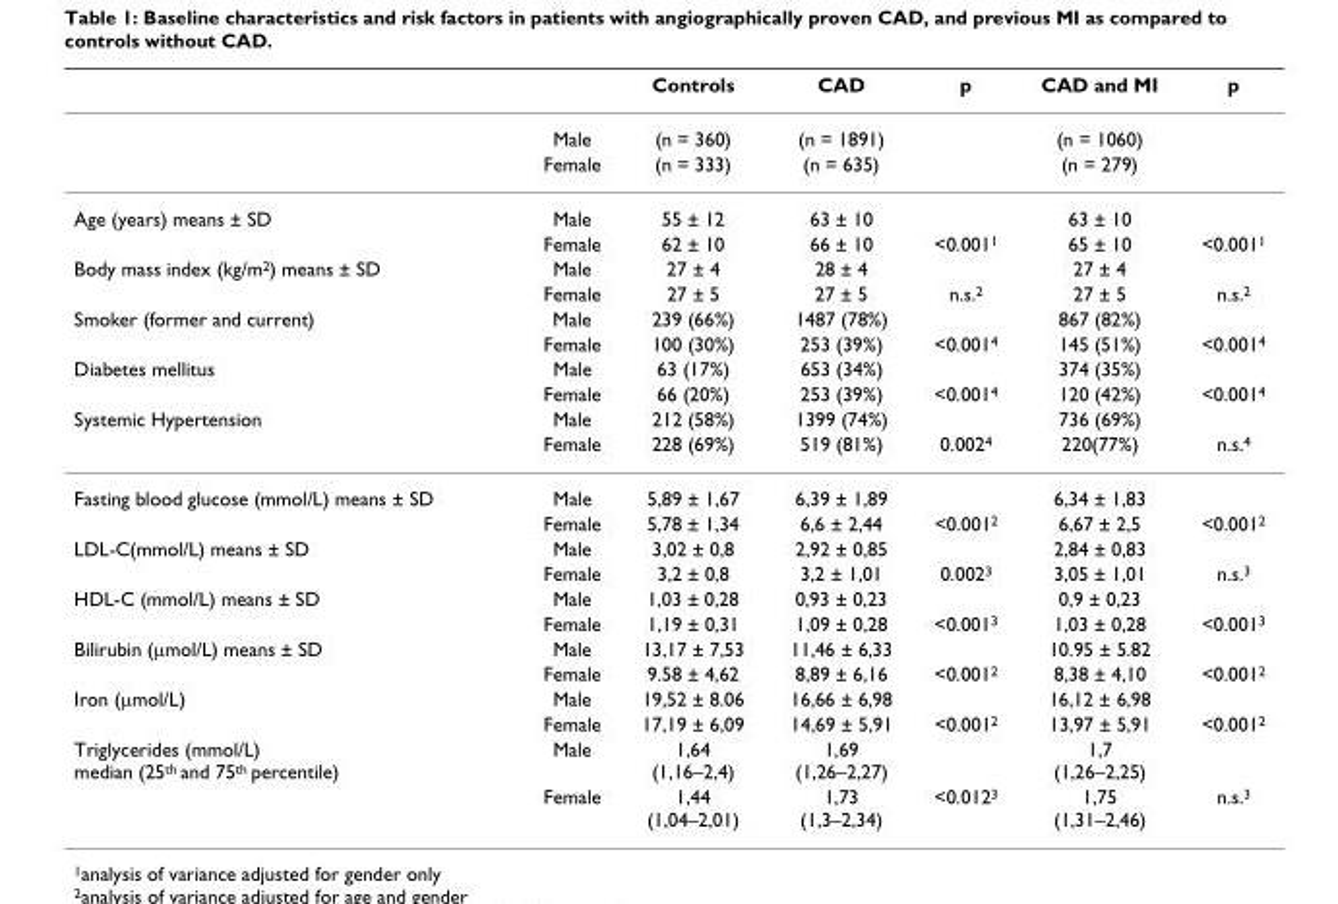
<table><thead><tr><td></td><td></td><td>Controls</td><td>CAD</td><td>p</td><td>CAD and MI</td><td>p</td></tr></thead><tbody><tr><td></td><td>Male</td><td>(n = 360)</td><td>(n = 1891)</td><td></td><td>(n = 1060)</td><td></td></tr><tr><td></td><td>Female</td><td>(n = 333)</td><td>(n = 635)</td><td></td><td>(n = 279)</td><td></td></tr><tr><td rowspan="2">Age (years) means ± SD</td><td>Male</td><td>55 ± 12</td><td>63 ± 10</td><td></td><td>63 ± 10</td><td></td></tr><tr><td>Female</td><td>62 ± 10</td><td>66 ± 10</td><td>&lt;0.001<sup>1</sup></td><td>65 ± 10</td><td>&lt;0.001<sup>1</sup></td></tr><tr><td rowspan="2">Body mass index (kg/m<sup>2</sup>) means ± SD</td><td>Male</td><td>27 ± 4</td><td>28 ± 4</td><td></td><td>27 ± 4</td><td></td></tr><tr><td>Female</td><td>27 ± 5</td><td>27 ± 5</td><td>n.s.<sup>2</sup></td><td>27 ± 5</td><td>n.s.<sup>2</sup></td></tr><tr><td rowspan="2">Smoker (former and current)</td><td>Male</td><td>239 (66%)</td><td>1487 (78%)</td><td></td><td>867 (82%)</td><td></td></tr><tr><td>Female</td><td>100 (30%)</td><td>253 (39%)</td><td>&lt;0.001<sup>4</sup></td><td>145 (51%)</td><td>&lt;0.001<sup>4</sup></td></tr><tr><td rowspan="2">Diabetes mellitus</td><td>Male</td><td>63 (17%)</td><td>653 (34%)</td><td></td><td>374 (35%)</td><td></td></tr><tr><td>Female</td><td>66 (20%)</td><td>253 (39%)</td><td>&lt;0.001<sup>4</sup></td><td>120 (42%)</td><td>&lt;0.001<sup>4</sup></td></tr><tr><td rowspan="2">Systemic Hypertension</td><td>Male</td><td>212 (58%)</td><td>1399 (74%)</td><td></td><td>736 (69%)</td><td></td></tr><tr><td>Female</td><td>228 (69%)</td><td>519 (81%)</td><td>0.002<sup>4</sup></td><td>220(77%)</td><td>n.s.<sup>4</sup></td></tr><tr><td rowspan="2">Fasting blood glucose (mmol/L) means ± SD</td><td>Male</td><td>5,89 ± 1,67</td><td>6,39 ± 1,89</td><td></td><td>6,34 ± 1,83</td><td></td></tr><tr><td>Female</td><td>5,78 ± 1,34</td><td>6,6 ± 2,44</td><td>&lt;0.001<sup>2</sup></td><td>6,67 ± 2,5</td><td>&lt;0.001<sup>2</sup></td></tr><tr><td rowspan="2">LDL-C(mmol/L) means ± SD</td><td>Male</td><td>3,02 ± 0,8</td><td>2,92 ± 0,85</td><td></td><td>2,84 ± 0,83</td><td></td></tr><tr><td>Female</td><td>3,2 ± 0,8</td><td>3,2 ± 1,01</td><td>0.002<sup>3</sup></td><td>3,05 ± 1,01</td><td>n.s.<sup>3</sup></td></tr><tr><td rowspan="2">HDL-C (mmol/L) means ± SD</td><td>Male</td><td>1,03 ± 0,28</td><td>0,93 ± 0,23</td><td></td><td>0,9 ± 0,23</td><td></td></tr><tr><td>Female</td><td>1,19 ± 0,31</td><td>1,09 ± 0,28</td><td>&lt;0.001<sup>3</sup></td><td>1,03 ± 0,28</td><td>&lt;0.001<sup>3</sup></td></tr><tr><td rowspan="2">Bilirubin (μmol/L) means ± SD</td><td>Male</td><td>13,17 ± 7,53</td><td>11,46 ± 6,33</td><td></td><td>10.95 ± 5.82</td><td></td></tr><tr><td>Female</td><td>9.58 ± 4,62</td><td>8,89 ± 6,16</td><td>&lt;0.001<sup>2</sup></td><td>8,38 ± 4,10</td><td>&lt;0.001<sup>2</sup></td></tr><tr><td rowspan="2">Iron (μmol/L)</td><td>Male</td><td>19,52 ± 8.06</td><td>16,66 ± 6,98</td><td></td><td>16,12 ± 6,98</td><td></td></tr><tr><td>Female</td><td>17,19 ± 6,09</td><td>14,69 ± 5,91</td><td>&lt;0.001<sup>2</sup></td><td>13,97 ± 5,91</td><td>&lt;0.001<sup>2</sup></td></tr><tr><td rowspan="2">Triglycerides (mmol/L) median (25<sup>th</sup> and 75<sup>th</sup> percentile)</td><td>Male</td><td>1,64 (1,16–2,4)</td><td>1,69 (1,26–2,27)</td><td></td><td>1,7 (1,26–2,25)</td><td></td></tr><tr><td>Female</td><td>1,44 (1,04–2,01)</td><td>1,73 (1,3–2,34)</td><td>&lt;0.012<sup>3</sup></td><td>1,75 (1,31–2,46)</td><td>n.s.<sup>3</sup></td></tr></tbody></table>